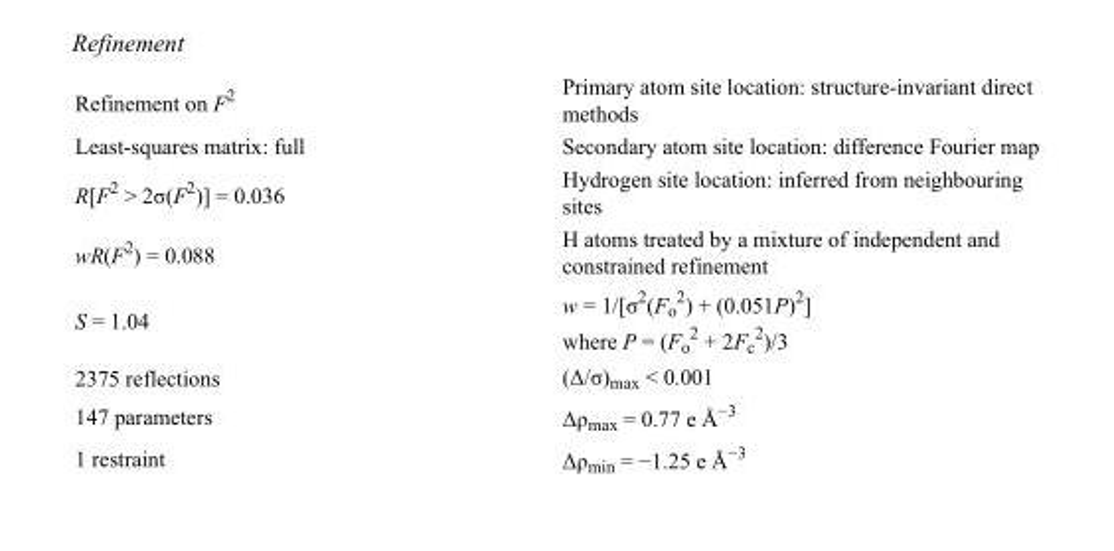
<table><tbody><tr><td>Refinement on F<sup>2</sup></td><td>Primary atom site location: structure-invariant direct methods</td></tr><tr><td>Least-squares matrix: full</td><td>Secondary atom site location: difference Fourier map</td></tr><tr><td>R[F<sup>2</sup> &gt; 2σ(F<sup>2</sup>)] = 0.036</td><td>Hydrogen site location: inferred from neighbouring sites</td></tr><tr><td>wR(F<sup>2</sup>) = 0.088</td><td>H atoms treated by a mixture of independent and constrained refinement</td></tr><tr><td>S = 1.04</td><td>w = 1/[σ<sup>2</sup>(F<sub>o</sub> <sup>2</sup>) + (0.051P)<sup>2</sup>] where P = (F<sub>o</sub> <sup>2</sup> + 2F<sub>c</sub> <sup>2</sup>)/3</td></tr><tr><td>2375 reflections</td><td>(Δ/σ)<sub>max</sub> &lt; 0.001</td></tr><tr><td>147 parameters</td><td>Δρ<sub>max</sub> = 0.77 e Å<sup>−3</sup></td></tr><tr><td>1 restraint</td><td>Δρ<sub>min</sub> = −1.25 e Å<sup>−3</sup></td></tr></tbody></table>